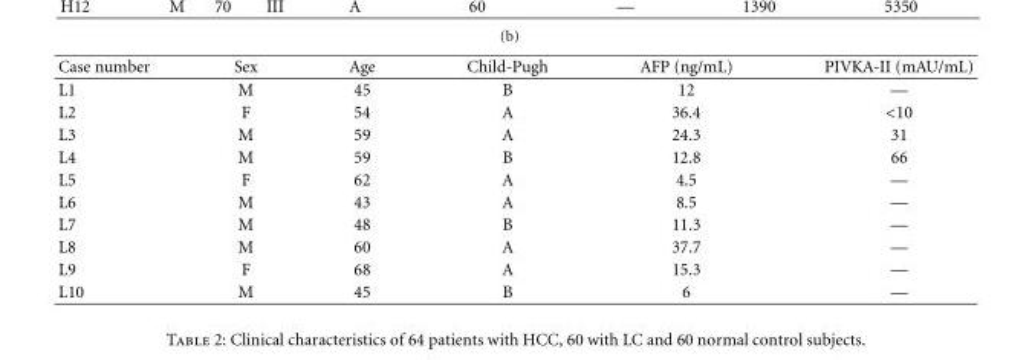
<table><thead><tr><td>Case number</td><td>Sex</td><td>Age</td><td>Child-Pugh</td><td>AFP (ng/mL)</td><td>PIVKA-II (mAU/mL)</td></tr></thead><tbody><tr><td>L1</td><td>M</td><td>45</td><td>B</td><td>12</td><td>—</td></tr><tr><td>L2</td><td>F</td><td>54</td><td>A</td><td>36.4</td><td>&lt;10</td></tr><tr><td>L3</td><td>M</td><td>59</td><td>A</td><td>24.3</td><td>31</td></tr><tr><td>L4</td><td>M</td><td>59</td><td>B</td><td>12.8</td><td>66</td></tr><tr><td>L5</td><td>F</td><td>62</td><td>A</td><td>4.5</td><td>—</td></tr><tr><td>L6</td><td>M</td><td>43</td><td>A</td><td>8.5</td><td>—</td></tr><tr><td>L7</td><td>M</td><td>48</td><td>B</td><td>11.3</td><td>—</td></tr><tr><td>L8</td><td>M</td><td>60</td><td>A</td><td>37.7</td><td>—</td></tr><tr><td>L9</td><td>F</td><td>68</td><td>A</td><td>15.3</td><td>—</td></tr><tr><td>L10</td><td>M</td><td>45</td><td>B</td><td>6</td><td>—</td></tr></tbody></table>